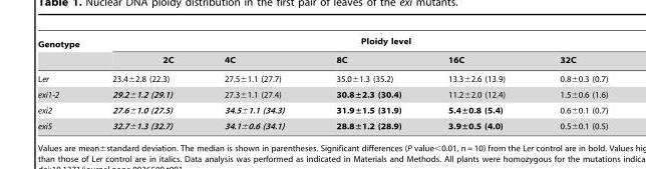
<table><thead><tr><td rowspan="2">Genotype</td><td colspan="5">Ploidy level</td></tr><tr><td>2C</td><td>4C</td><td>8C</td><td>16C</td><td>32C</td></tr></thead><tbody><tr><td>Ler</td><td>23.4±2.8 (22.3)</td><td>27.5±1.1 (27.7)</td><td>35.0±1.3 (35.2)</td><td>13.3±2.6 (13.9)</td><td>0.8±0.3 (0.7)</td></tr><tr><td>exi1-2</td><td>29.2±1.2 (29.1)</td><td>27.3±1.1 (27.4)</td><td>30.8±2.3 (30.4)</td><td>11.2±2.0 (12.4)</td><td>1.5±0.6 (1.6)</td></tr><tr><td>exi2</td><td>27.6±1.0 (27.5)</td><td>34.5±1.1 (34.3)</td><td>31.9±1.5 (31.9)</td><td>5.4±0.8 (5.4)</td><td>0.6±0.1 (0.7)</td></tr><tr><td>exi5</td><td>32.7±1.3 (32.7)</td><td>34.1±0.6 (34.1)</td><td>28.8±1.2 (28.9)</td><td>3.9±0.5 (4.0)</td><td>0.5±0.1 (0.5)</td></tr></tbody></table>